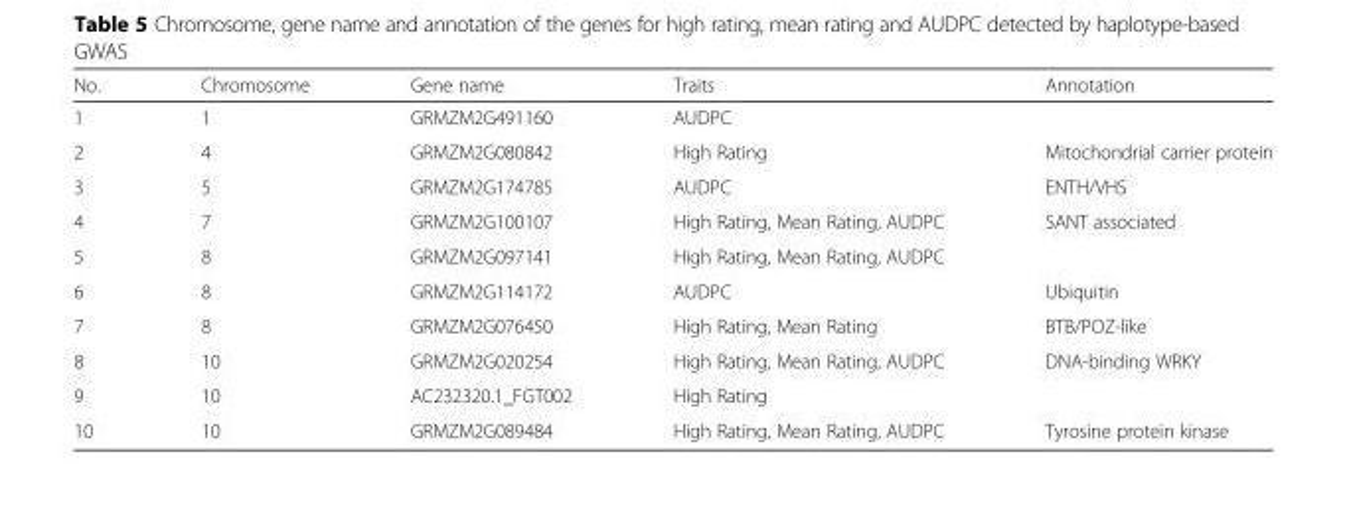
<table><thead><tr><td>No.</td><td>Chromosome</td><td>Gene name</td><td>Traits</td><td>Annotation</td></tr></thead><tbody><tr><td>1</td><td>1</td><td>GRMZM2G491160</td><td>AUDPC</td><td></td></tr><tr><td>2</td><td>4</td><td>GRMZM2G080842</td><td>High Rating</td><td>Mitochondrial carrier protein</td></tr><tr><td>3</td><td>5</td><td>GRMZM2G174785</td><td>AUDPC</td><td>ENTH/VHS</td></tr><tr><td>4</td><td>7</td><td>GRMZM2G100107</td><td>High Rating, Mean Rating, AUDPC</td><td>SANT associated</td></tr><tr><td>5</td><td>8</td><td>GRMZM2G097141</td><td>High Rating, Mean Rating, AUDPC</td><td></td></tr><tr><td>6</td><td>8</td><td>GRMZM2G114172</td><td>AUDPC</td><td>Ubiquitin</td></tr><tr><td>7</td><td>8</td><td>GRMZM2G076450</td><td>High Rating, Mean Rating</td><td>BTB/POZ-like</td></tr><tr><td>8</td><td>10</td><td>GRMZM2G020254</td><td>High Rating, Mean Rating, AUDPC</td><td>DNA-binding WRKY</td></tr><tr><td>9</td><td>10</td><td>AC232320.1_FGT002</td><td>High Rating</td><td></td></tr><tr><td>10</td><td>10</td><td>GRMZM2G089484</td><td>High Rating, Mean Rating, AUDPC</td><td>Tyrosine protein kinase</td></tr></tbody></table>